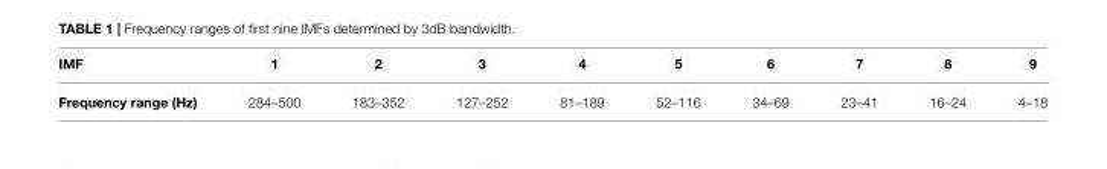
<table><thead><tr><td>IMF</td><td>1</td><td>2</td><td>3</td><td>4</td><td>5</td><td>6</td><td>7</td><td>8</td><td>9</td></tr></thead><tbody><tr><td>Frequency range (Hz)</td><td>284–500</td><td>183–352</td><td>127–252</td><td>81–189</td><td>52–116</td><td>34–69</td><td>23–41</td><td>16–24</td><td>4–18</td></tr></tbody></table>